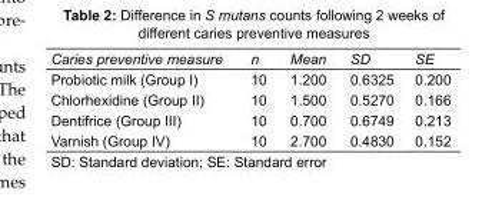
<table><tbody><tr><td>Caries preventive measure</td><td>n</td><td>Mean</td><td>SD</td><td>SE</td></tr><tr><td>Probiotic milk (Group I)</td><td>10</td><td>1.200</td><td>0.6325</td><td>0.200</td></tr><tr><td>Chlorhexidine (Group II)</td><td>10</td><td>1.500</td><td>0.5270</td><td>0.166</td></tr><tr><td>Dentifrice (Group III)</td><td>10</td><td>0.700</td><td>0.6749</td><td>0.213</td></tr><tr><td>Varnish (Group IV)</td><td>10</td><td>2.700</td><td>0.4830</td><td>0.152</td></tr></tbody></table>